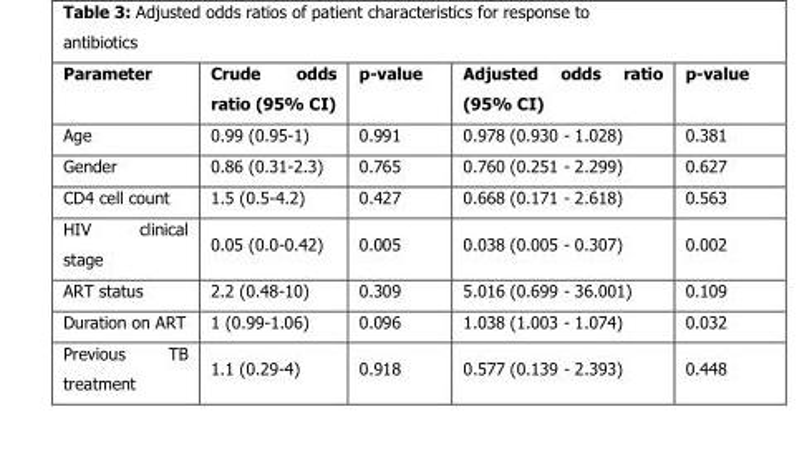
<table><thead><tr><td>Parameter</td><td>Crude odds ratio (95% CI)</td><td>p-value</td><td>Adjusted odds ratio (95% CI)</td><td>p-value</td></tr></thead><tbody><tr><td>Age</td><td>0.99 (0.95-1)</td><td>0.991</td><td>0.978 (0.930 - 1.028)</td><td>0.381</td></tr><tr><td>Gender</td><td>0.86 (0.31-2.3)</td><td>0.765</td><td>0.760 (0.251 - 2.299)</td><td>0.627</td></tr><tr><td>CD4 cell count</td><td>1.5 (0.5-4.2)</td><td>0.427</td><td>0.668 (0.171 - 2.618)</td><td>0.563</td></tr><tr><td>HIV clinical stage</td><td>0.05 (0.0-0.42)</td><td>0.005</td><td>0.038 (0.005 - 0.307)</td><td>0.002</td></tr><tr><td>ART status</td><td>2.2 (0.48-10)</td><td>0.309</td><td>5.016 (0.699 - 36.001)</td><td>0.109</td></tr><tr><td>Duration on ART</td><td>1 (0.99-1.06)</td><td>0.096</td><td>1.038 (1.003 - 1.074)</td><td>0.032</td></tr><tr><td>Previous TB treatment</td><td>1.1 (0.29-4)</td><td>0.918</td><td>0.577 (0.139 - 2.393)</td><td>0.448</td></tr></tbody></table>